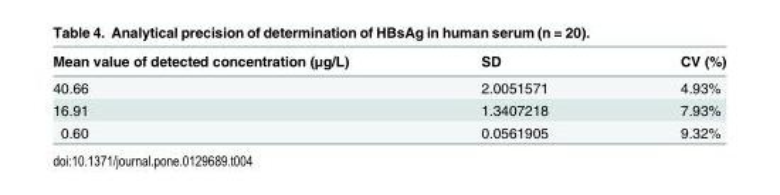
<table><thead><tr><td>Mean value of detected concentration (μg/L)</td><td>SD</td><td>CV (%)</td></tr></thead><tbody><tr><td>40.66</td><td>2.0051571</td><td>4.93%</td></tr><tr><td>16.91</td><td>1.3407218</td><td>7.93%</td></tr><tr><td>0.60</td><td>0.0561905</td><td>9.32%</td></tr></tbody></table>